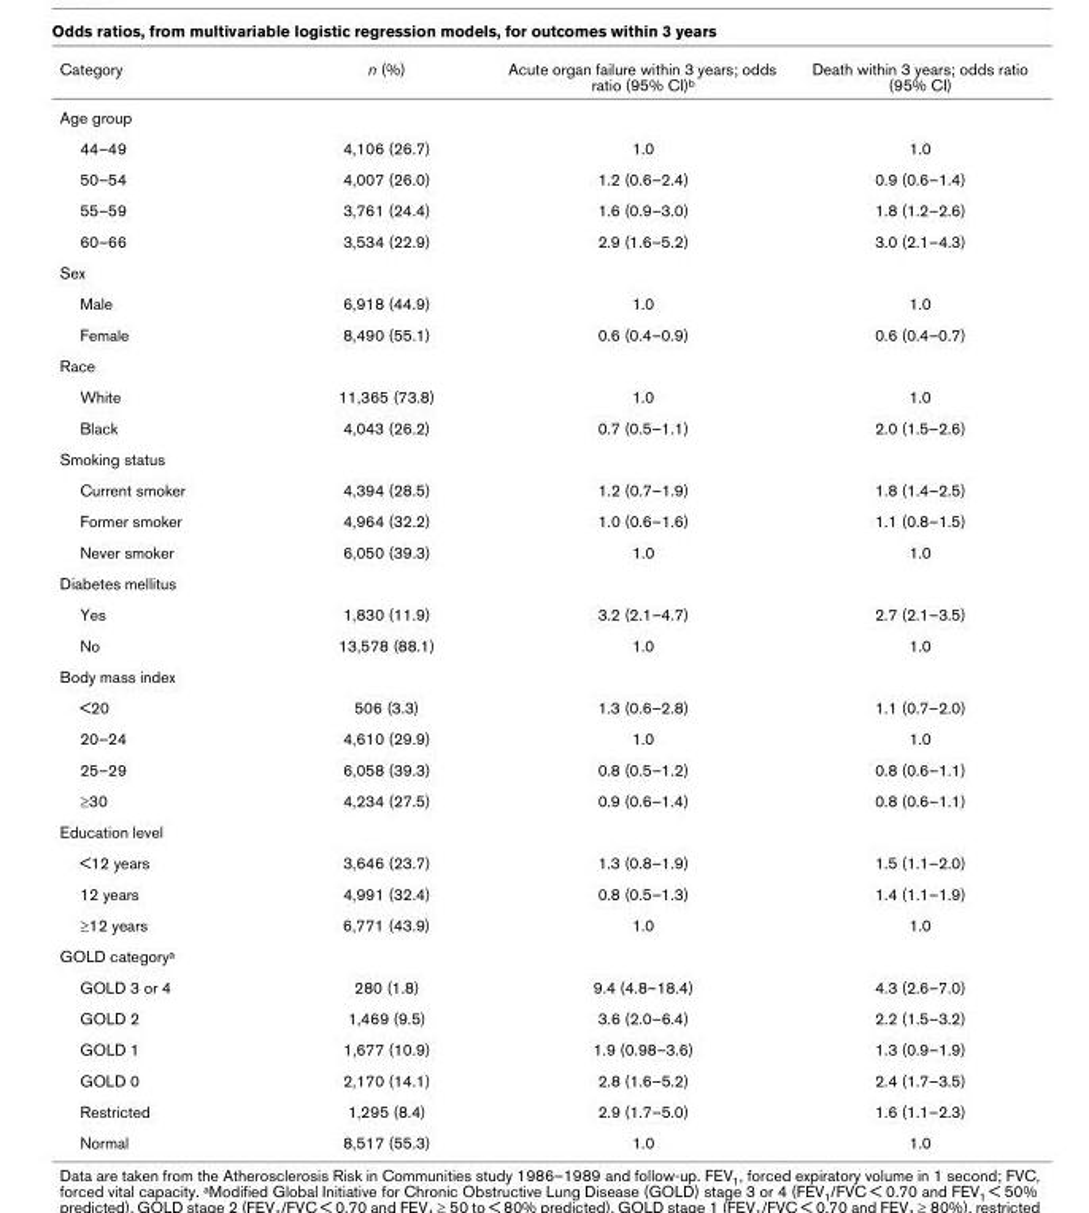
<table><thead><tr><td>Category</td><td>n (%)</td><td>Acute organ failure within 3 years; odds ratio (95% CI)b</td><td>Death within 3 years; odds ratio (95% CI)</td></tr></thead><tbody><tr><td colspan="4">Age group</td></tr><tr><td>44–49</td><td>4,106 (26.7)</td><td>1.0</td><td>1.0</td></tr><tr><td>50–54</td><td>4,007 (26.0)</td><td>1.2 (0.6–2.4)</td><td>0.9 (0.6–1.4)</td></tr><tr><td>55–59</td><td>3,761 (24.4)</td><td>1.6 (0.9–3.0)</td><td>1.8 (1.2–2.6)</td></tr><tr><td>60–66</td><td>3,534 (22.9)</td><td>2.9 (1.6–5.2)</td><td>3.0 (2.1–4.3)</td></tr><tr><td colspan="4">Sex</td></tr><tr><td>Male</td><td>6,918 (44.9)</td><td>1.0</td><td>1.0</td></tr><tr><td>Female</td><td>8,490 (55.1)</td><td>0.6 (0.4–0.9)</td><td>0.6 (0.4–0.7)</td></tr><tr><td colspan="4">Race</td></tr><tr><td>White</td><td>11,365 (73.8)</td><td>1.0</td><td>1.0</td></tr><tr><td>Black</td><td>4,043 (26.2)</td><td>0.7 (0.5–1.1)</td><td>2.0 (1.5–2.6)</td></tr><tr><td colspan="4">Smoking status</td></tr><tr><td>Current smoker</td><td>4,394 (28.5)</td><td>1.2 (0.7–1.9)</td><td>1.8 (1.4–2.5)</td></tr><tr><td>Former smoker</td><td>4,964 (32.2)</td><td>1.0 (0.6–1.6)</td><td>1.1 (0.8–1.5)</td></tr><tr><td>Never smoker</td><td>6,050 (39.3)</td><td>1.0</td><td>1.0</td></tr><tr><td colspan="4">Diabetes mellitus</td></tr><tr><td>Yes</td><td>1,830 (11.9)</td><td>3.2 (2.1–4.7)</td><td>2.7 (2.1–3.5)</td></tr><tr><td>No</td><td>13,578 (88.1)</td><td>1.0</td><td>1.0</td></tr><tr><td colspan="4">Body mass index</td></tr><tr><td>&lt;20</td><td>506 (3.3)</td><td>1.3 (0.6–2.8)</td><td>1.1 (0.7–2.0)</td></tr><tr><td>20–24</td><td>4,610 (29.9)</td><td>1.0</td><td>1.0</td></tr><tr><td>25–29</td><td>6,058 (39.3)</td><td>0.8 (0.5–1.2)</td><td>0.8 (0.6–1.1)</td></tr><tr><td>≥30</td><td>4,234 (27.5)</td><td>0.9 (0.6–1.4)</td><td>0.8 (0.6–1.1)</td></tr><tr><td colspan="4">Education level</td></tr><tr><td>&lt;12 years</td><td>3,646 (23.7)</td><td>1.3 (0.8–1.9)</td><td>1.5 (1.1–2.0)</td></tr><tr><td>12 years</td><td>4,991 (32.4)</td><td>0.8 (0.5–1.3)</td><td>1.4 (1.1–1.9)</td></tr><tr><td>≥12 years</td><td>6,771 (43.9)</td><td>1.0</td><td>1.0</td></tr><tr><td colspan="4">GOLD categorya</td></tr><tr><td>GOLD 3 or 4</td><td>280 (1.8)</td><td>9.4 (4.8–18.4)</td><td>4.3 (2.6–7.0)</td></tr><tr><td>GOLD 2</td><td>1,469 (9.5)</td><td>3.6 (2.0–6.4)</td><td>2.2 (1.5–3.2)</td></tr><tr><td>GOLD 1</td><td>1,677 (10.9)</td><td>1.9 (0.98–3.6)</td><td>1.3 (0.9–1.9)</td></tr><tr><td>GOLD 0</td><td>2,170 (14.1)</td><td>2.8 (1.6–5.2)</td><td>2.4 (1.7–3.5)</td></tr><tr><td>Restricted</td><td>1,295 (8.4)</td><td>2.9 (1.7–5.0)</td><td>1.6 (1.1–2.3)</td></tr><tr><td>Normal</td><td>8,517 (55.3)</td><td>1.0</td><td>1.0</td></tr></tbody></table>